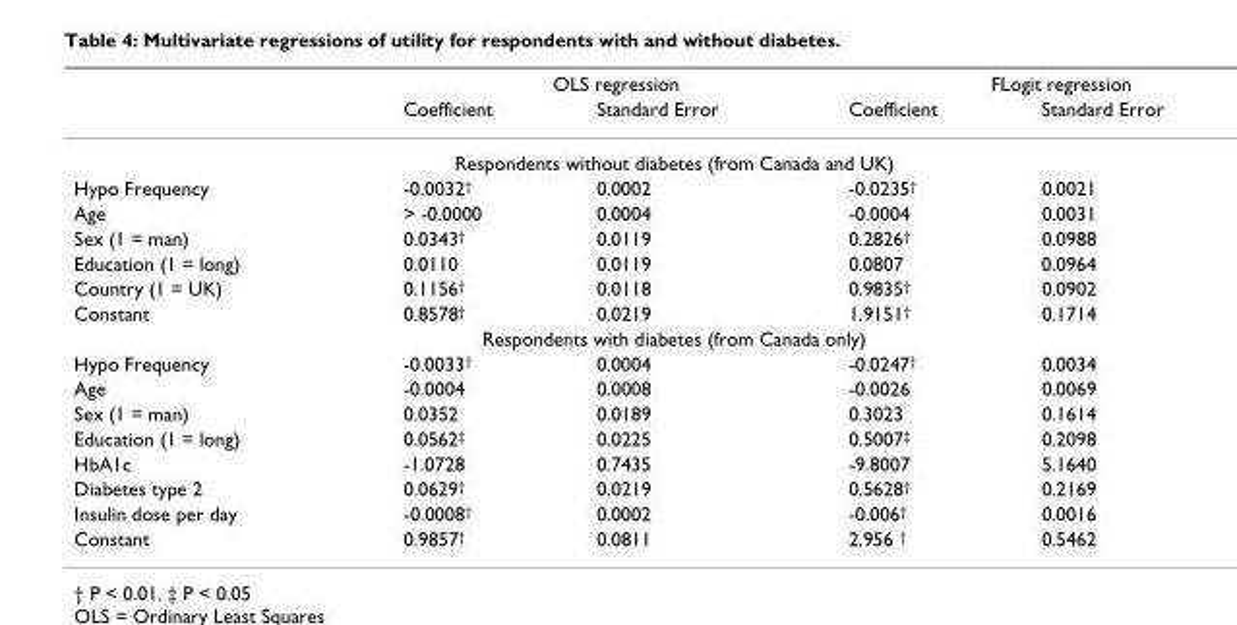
<table><thead><tr><td rowspan="2"></td><td colspan="2">OLS regression</td><td colspan="2">FLogit regression</td></tr><tr><td>Coefficient</td><td>Standard Error</td><td>Coefficient</td><td>Standard Error</td></tr></thead><tbody><tr><td colspan="5">Respondents without diabetes (from Canada and UK)</td></tr><tr><td>Hypo Frequency</td><td>-0.0032<sup>†</sup></td><td>0.0002</td><td>-0.0235<sup>†</sup></td><td>0.0021</td></tr><tr><td>Age</td><td>&gt; -0.0000</td><td>0.0004</td><td>-0.0004</td><td>0.0031</td></tr><tr><td>Sex (1 = man)</td><td>0.0343<sup>†</sup></td><td>0.0119</td><td>0.2826<sup>†</sup></td><td>0.0988</td></tr><tr><td>Education (1 = long)</td><td>0.0110</td><td>0.0119</td><td>0.0807</td><td>0.0964</td></tr><tr><td>Country (1 = UK)</td><td>0.1156<sup>†</sup></td><td>0.0118</td><td>0.9835<sup>†</sup></td><td>0.0902</td></tr><tr><td>Constant</td><td>0.8578<sup>†</sup></td><td>0.0219</td><td>1.9151<sup>†</sup></td><td>0.1714</td></tr><tr><td colspan="5">Respondents with diabetes (from Canada only)</td></tr><tr><td>Hypo Frequency</td><td>-0.0033<sup>†</sup></td><td>0.0004</td><td>-0.0247<sup>†</sup></td><td>0.0034</td></tr><tr><td>Age</td><td>-0.0004</td><td>0.0008</td><td>-0.0026</td><td>0.0069</td></tr><tr><td>Sex (1 = man)</td><td>0.0352</td><td>0.0189</td><td>0.3023</td><td>0.1614</td></tr><tr><td>Education (1 = long)</td><td>0.0562<sup>‡</sup></td><td>0.0225</td><td>0.5007<sup>‡</sup></td><td>0.2098</td></tr><tr><td>HbA1c</td><td>-1.0728</td><td>0.7435</td><td>-9.8007</td><td>5.1640</td></tr><tr><td>Diabetes type 2</td><td>0.0629<sup>†</sup></td><td>0.0219</td><td>0.5628<sup>†</sup></td><td>0.2169</td></tr><tr><td>Insulin dose per day</td><td>-0.0008<sup>†</sup></td><td>0.0002</td><td>-0.006<sup>†</sup></td><td>0.0016</td></tr><tr><td>Constant</td><td>0.9857<sup>†</sup></td><td>0.0811</td><td>2.956 <sup>†</sup></td><td>0.5462</td></tr></tbody></table>